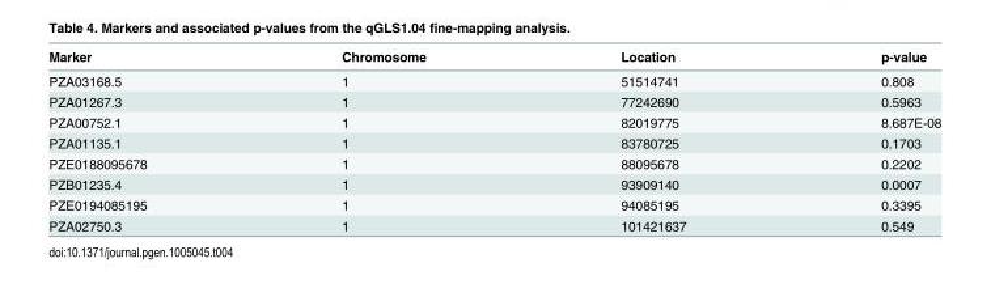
<table><thead><tr><td>Marker</td><td>Chromosome</td><td>Location</td><td>p-value</td></tr></thead><tbody><tr><td>PZA03168.5</td><td>1</td><td>51514741</td><td>0.808</td></tr><tr><td>PZA01267.3</td><td>1</td><td>77242690</td><td>0.5963</td></tr><tr><td>PZA00752.1</td><td>1</td><td>82019775</td><td>8.687E-08</td></tr><tr><td>PZA01135.1</td><td>1</td><td>83780725</td><td>0.1703</td></tr><tr><td>PZE0188095678</td><td>1</td><td>88095678</td><td>0.2202</td></tr><tr><td>PZB01235.4</td><td>1</td><td>93909140</td><td>0.0007</td></tr><tr><td>PZE0194085195</td><td>1</td><td>94085195</td><td>0.3395</td></tr><tr><td>PZA02750.3</td><td>1</td><td>101421637</td><td>0.549</td></tr></tbody></table>